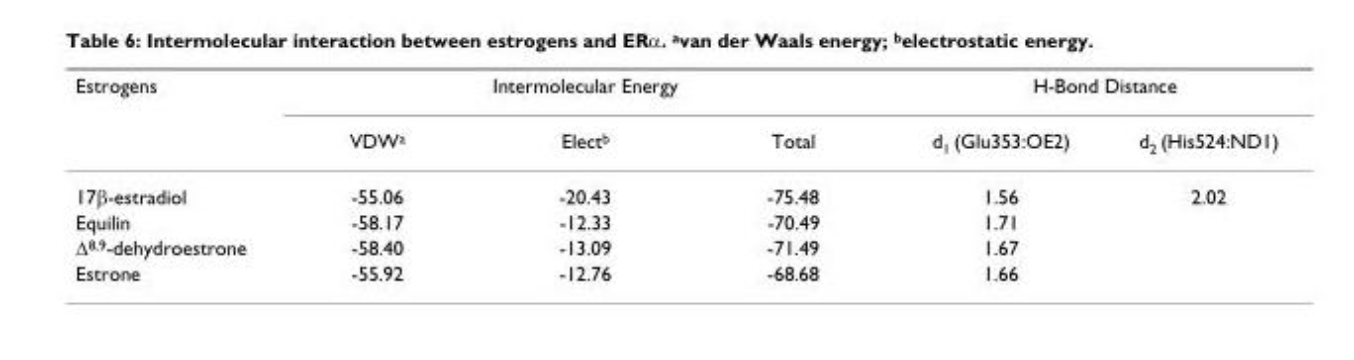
<table><thead><tr><td rowspan="2">Estrogens</td><td colspan="3">Intermolecular Energy</td><td colspan="2">H-Bond Distance</td></tr><tr><td>VDWa</td><td>Electb</td><td>Total</td><td>d1 (Glu353:OE2)</td><td>d2 (His524:ND1)</td></tr></thead><tbody><tr><td>17β-estradiol</td><td>-55.06</td><td>-20.43</td><td>-75.48</td><td>1.56</td><td>2.02</td></tr><tr><td>Equilin</td><td>-58.17</td><td>-12.33</td><td>-70.49</td><td>1.71</td><td></td></tr><tr><td>∆8,9-dehydroestrone</td><td>-58.40</td><td>-13.09</td><td>-71.49</td><td>1.67</td><td></td></tr><tr><td>Estrone</td><td>-55.92</td><td>-12.76</td><td>-68.68</td><td>1.66</td><td></td></tr></tbody></table>